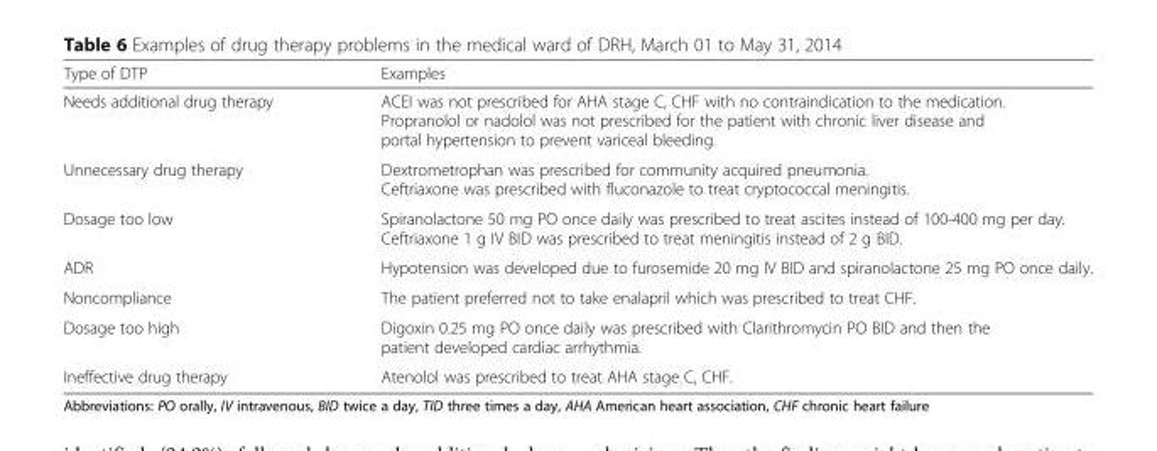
<table><thead><tr><td>Type of DTP</td><td>Examples</td></tr></thead><tbody><tr><td>Needs additional drug therapy</td><td>ACEI was not prescribed for AHA stage C, CHF with no contraindication to the medication. Propranolol or nadolol was not prescribed for the patient with chronic liver disease and portal hypertension to prevent variceal bleeding.</td></tr><tr><td>Unnecessary drug therapy</td><td>Dextrometrophan was prescribed for community acquired pneumonia. Ceftriaxone was prescribed with fluconazole to treat cryptococcal meningitis.</td></tr><tr><td>Dosage too low</td><td>Spiranolactone 50 mg PO once daily was prescribed to treat ascites instead of 100-400 mg per day. Ceftriaxone 1 g IV BID was prescribed to treat meningitis instead of 2 g BID.</td></tr><tr><td>ADR</td><td>Hypotension was developed due to furosemide 20 mg IV BID and spiranolactone 25 mg PO once daily.</td></tr><tr><td>Noncompliance</td><td>The patient preferred not to take enalapril which was prescribed to treat CHF.</td></tr><tr><td>Dosage too high</td><td>Digoxin 0.25 mg PO once daily was prescribed with Clarithromycin PO BID and then the patient developed cardiac arrhythmia.</td></tr><tr><td>Ineffective drug therapy</td><td>Atenolol was prescribed to treat AHA stage C, CHF.</td></tr></tbody></table>